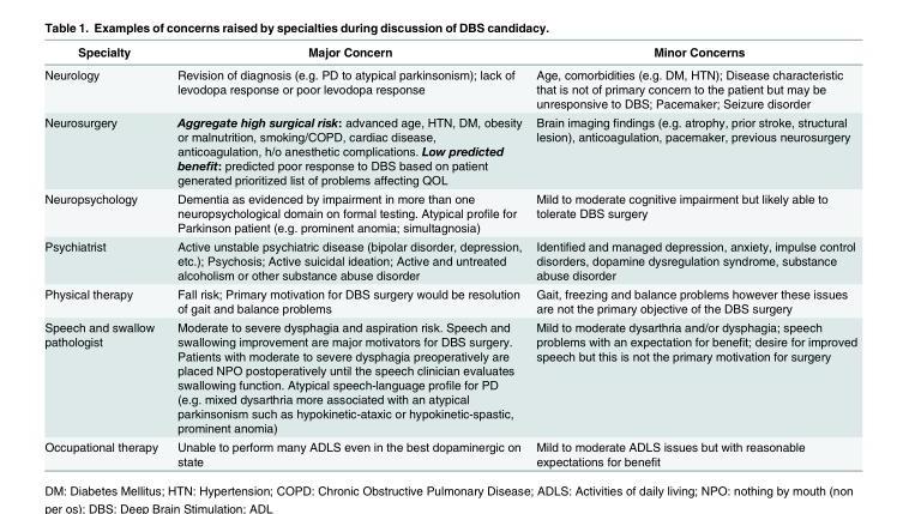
<table><thead><tr><td>Specialty</td><td>Major Concern</td><td>Minor Concerns</td></tr></thead><tbody><tr><td>Neurology</td><td>Revision of diagnosis (e.g. PD to atypical parkinsonism); lack of levodopa response or poor levodopa response</td><td>Age, comorbidities (e.g. DM, HTN); Disease characteristic that is not of primary concern to the patient but may be unresponsive to DBS; Pacemaker; Seizure disorder</td></tr><tr><td>Neurosurgery</td><td>Aggregate high surgical risk: advanced age, HTN, DM, obesity or malnutrition, smoking/COPD, cardiac disease, anticoagulation, h/o anesthetic complications. Low predicted benefit: predicted poor response to DBS based on patient generated prioritized list of problems affecting QOL</td><td>Brain imaging findings (e.g. atrophy, prior stroke, structural lesion), anticoagulation, pacemaker, previous neurosurgery</td></tr><tr><td>Neuropsychology</td><td>Dementia as evidenced by impairment in more than one neuropsychological domain on formal testing. Atypical profile for Parkinson patient (e.g. prominent anomia; simultagnosia)</td><td>Mild to moderate cognitive impairment but likely able to tolerate DBS surgery</td></tr><tr><td>Psychiatrist</td><td>Active unstable psychiatric disease (bipolar disorder, depression, etc.); Psychosis; Active suicidal ideation; Active and untreated alcoholism or other substance abuse disorder</td><td>Identified and managed depression, anxiety, impulse control disorders, dopamine dysregulation syndrome, substance abuse disorder</td></tr><tr><td>Physical therapy</td><td>Fall risk; Primary motivation for DBS surgery would be resolution of gait and balance problems</td><td>Gait, freezing and balance problems however these issues are not the primary objective of the DBS surgery</td></tr><tr><td>Speech and swallow pathologist</td><td>Moderate to severe dysphagia and aspiration risk. Speech and swallowing improvement are major motivators for DBS surgery. Patients with moderate to severe dysphagia preoperatively are placed NPO postoperatively until the speech clinician evaluates swallowing function. Atypical speech-language profile for PD (e.g. mixed dysarthria more associated with an atypical parkinsonism such as hypokinetic-ataxic or hypokinetic-spastic, prominent anomia)</td><td>Mild to moderate dysarthria and/or dysphagia; speech problems with an expectation for benefit; desire for improved speech but this is not the primary motivation for surgery</td></tr><tr><td>Occupational therapy</td><td>Unable to perform many ADLS even in the best dopaminergic on state</td><td>Mild to moderate ADLS issues but with reasonable expectations for benefit</td></tr></tbody></table>